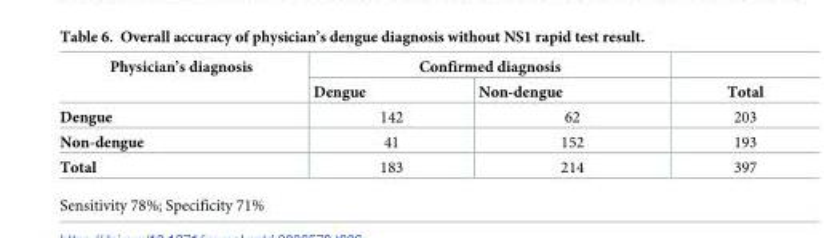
<table><thead><tr><td rowspan="2">Physician’s diagnosis</td><td colspan="2">Confirmed diagnosis</td><td rowspan="2">Total</td></tr><tr><td>Dengue</td><td>Non-dengue</td></tr></thead><tbody><tr><td>Dengue</td><td>142</td><td>62</td><td>203</td></tr><tr><td>Non-dengue</td><td>41</td><td>152</td><td>193</td></tr><tr><td>Total</td><td>183</td><td>214</td><td>397</td></tr></tbody></table>